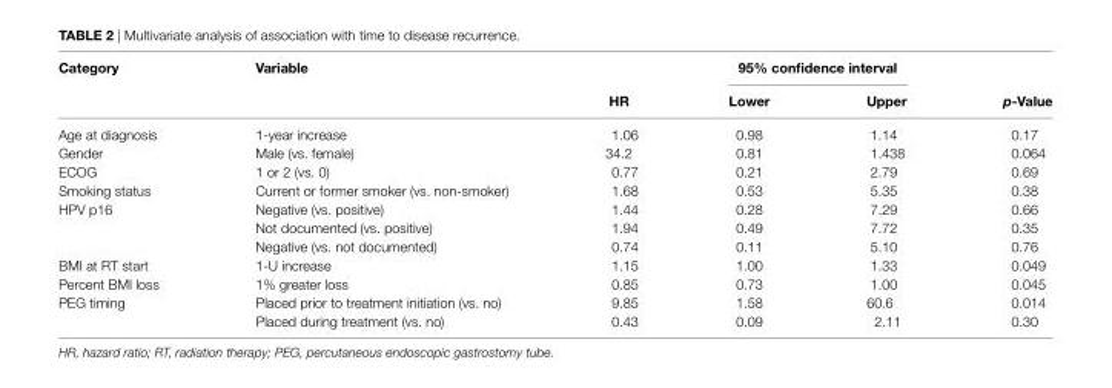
<table><thead><tr><td rowspan="2">category</td><td rowspan="2">Variable</td><td rowspan="2">hr</td><td colspan="2">95% confidence interval</td><td rowspan="2">p-Value</td></tr><tr><td>lower</td><td>Upper</td></tr></thead><tbody><tr><td>Age at diagnosis</td><td>1-year increase</td><td>1.06</td><td>0.98</td><td>1.14</td><td>0.17</td></tr><tr><td>Gender</td><td>Male (vs. female)</td><td>34.2</td><td>0.81</td><td>1.438</td><td>0.064</td></tr><tr><td>ECOG</td><td>1 or 2 (vs. 0)</td><td>0.77</td><td>0.21</td><td>2.79</td><td>0.69</td></tr><tr><td>Smoking status</td><td>Current or former smoker (vs. non-smoker)</td><td>1.68</td><td>0.53</td><td>5.35</td><td>0.38</td></tr><tr><td rowspan="3">HPV p16</td><td>Negative (vs. positive)</td><td>1.44</td><td>0.28</td><td>7.29</td><td>0.66</td></tr><tr><td>Not documented (vs. positive)</td><td>1.94</td><td>0.49</td><td>7.72</td><td>0.35</td></tr><tr><td>Negative (vs. not documented)</td><td>0.74</td><td>0.11</td><td>5.10</td><td>0.76</td></tr><tr><td>BMI at RT start</td><td>1-U increase</td><td>1.15</td><td>1.00</td><td>1.33</td><td>0.049</td></tr><tr><td>Percent BMI loss</td><td>1% greater loss</td><td>0.85</td><td>0.73</td><td>1.00</td><td>0.045</td></tr><tr><td rowspan="2">PEG timing</td><td>Placed prior to treatment initiation (vs. no)</td><td>9.85</td><td>1.58</td><td>60.6</td><td>0.014</td></tr><tr><td>Placed during treatment (vs. no)</td><td>0.43</td><td>0.09</td><td>2.11</td><td>0.30</td></tr></tbody></table>